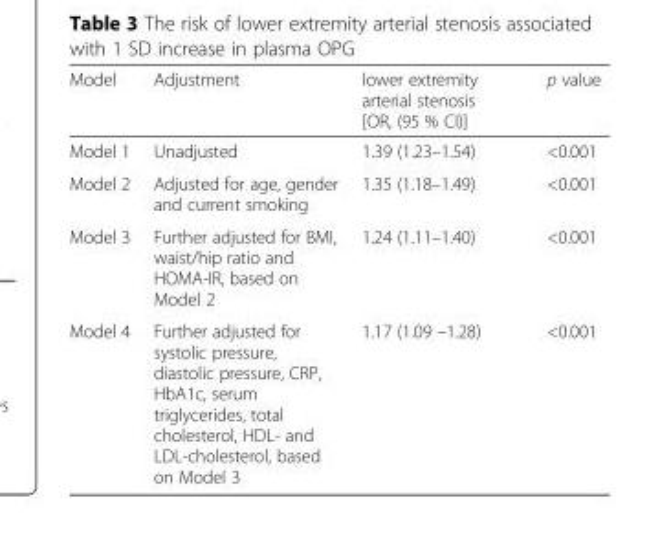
<table><thead><tr><td>Model</td><td>Adjustment</td><td>lower extremity arterial stenosis [OR, (95 % CI)]</td><td>p value</td></tr></thead><tbody><tr><td>Model 1</td><td>Unadjusted</td><td>1.39 (1.23–1.54)</td><td>&lt;0.001</td></tr><tr><td>Model 2</td><td>Adjusted for age, gender and current smoking</td><td>1.35 (1.18–1.49)</td><td>&lt;0.001</td></tr><tr><td>Model 3</td><td>Further adjusted for BMI, waist/hip ratio and HOMA-IR, based on Model 2</td><td>1.24 (1.11–1.40)</td><td>&lt;0.001</td></tr><tr><td>Model 4</td><td>Further adjusted for systolic pressure, diastolic pressure, CRP, HbA1c, serum triglycerides, total cholesterol, HDL- and LDL-cholesterol, based on Model 3</td><td>1.17 (1.09 –1.28)</td><td>&lt;0.001</td></tr></tbody></table>